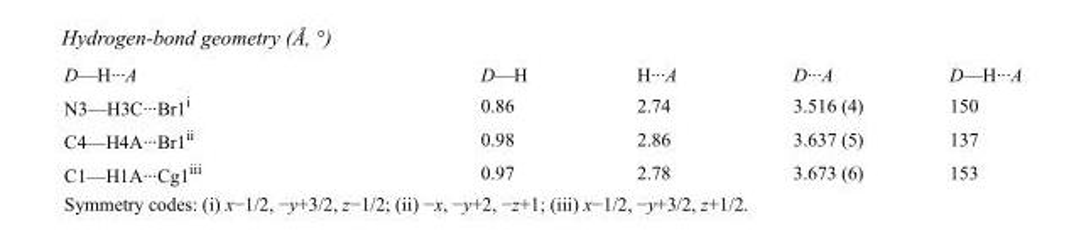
<table><tbody><tr><td>D—H···A</td><td>D—H</td><td>H···A</td><td>D···A</td><td>D—H···A</td></tr><tr><td>N3—H3C···Br1<sup>i</sup></td><td>0.86</td><td>2.74</td><td>3.516 (4)</td><td>150</td></tr><tr><td>C4—H4A···Br1<sup>ii</sup></td><td>0.98</td><td>2.86</td><td>3.637 (5)</td><td>137</td></tr><tr><td>C1—H1A···Cg1<sup>iii</sup></td><td>0.97</td><td>2.78</td><td>3.673 (6)</td><td>153</td></tr></tbody></table>